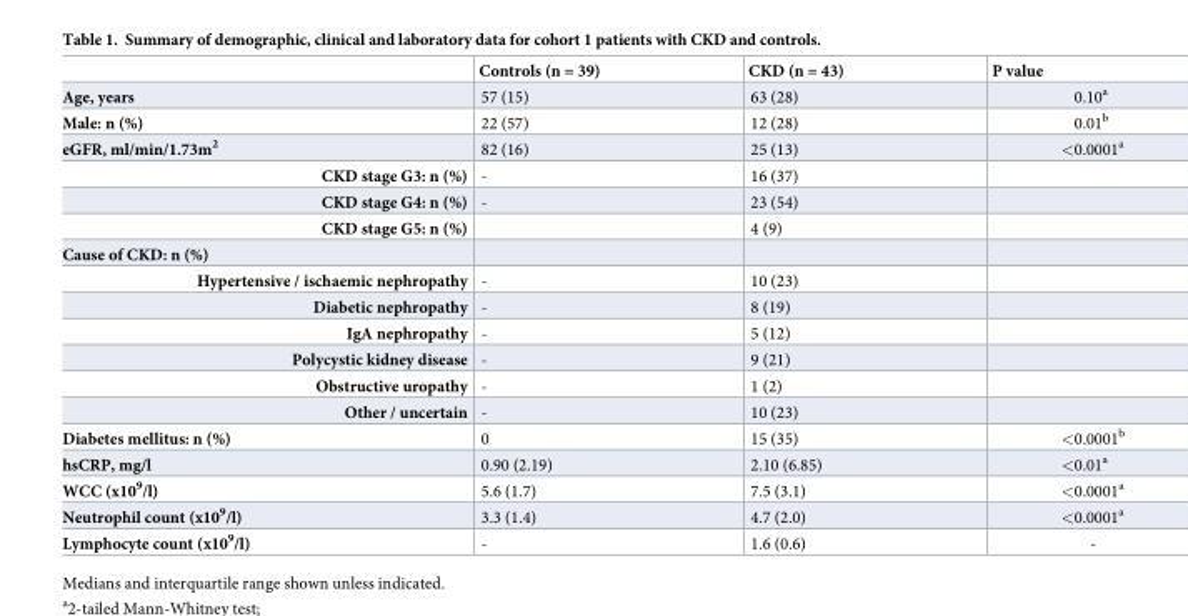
<table><thead><tr><td></td><td>Controls (n = 39)</td><td>CKD (n = 43)</td><td>P value</td></tr></thead><tbody><tr><td>Age, years</td><td>57 (15)</td><td>63 (28)</td><td>0.10<sup>a</sup></td></tr><tr><td>Male: n (%)</td><td>22 (57)</td><td>12 (28)</td><td>0.01<sup>b</sup></td></tr><tr><td>eGFR, ml/min/1.73m<sup>2</sup></td><td>82 (16)</td><td>25 (13)</td><td>&lt;0.0001<sup>a</sup></td></tr><tr><td>CKD stage G3: n (%)</td><td>-</td><td>16 (37)</td><td></td></tr><tr><td>CKD stage G4: n (%)</td><td>-</td><td>23 (54)</td><td></td></tr><tr><td>CKD stage G5: n (%)</td><td></td><td>4 (9)</td><td></td></tr><tr><td colspan="4">Cause of CKD: n (%)</td></tr><tr><td>Hypertensive / ischaemic nephropathy</td><td>-</td><td>10 (23)</td><td></td></tr><tr><td>Diabetic nephropathy</td><td>-</td><td>8 (19)</td><td></td></tr><tr><td>IgA nephropathy</td><td>-</td><td>5 (12)</td><td></td></tr><tr><td>Polycystic kidney disease</td><td>-</td><td>9 (21)</td><td></td></tr><tr><td>Obstructive uropathy</td><td>-</td><td>1 (2)</td><td></td></tr><tr><td>Other / uncertain</td><td>-</td><td>10 (23)</td><td></td></tr><tr><td>Diabetes mellitus: n (%)</td><td>0</td><td>15 (35)</td><td>&lt;0.0001<sup>b</sup></td></tr><tr><td>hsCRP, mg/l</td><td>0.90 (2.19)</td><td>2.10 (6.85)</td><td>&lt;0.01<sup>a</sup></td></tr><tr><td>WCC (x10<sup>9</sup>/l)</td><td>5.6 (1.7)</td><td>7.5 (3.1)</td><td>&lt;0.0001<sup>a</sup></td></tr><tr><td>Neutrophil count (x10<sup>9</sup>/l)</td><td>3.3 (1.4)</td><td>4.7 (2.0)</td><td>&lt;0.0001<sup>a</sup></td></tr><tr><td>Lymphocyte count (x10<sup>9</sup>/l)</td><td>-</td><td>1.6 (0.6)</td><td>-</td></tr></tbody></table>